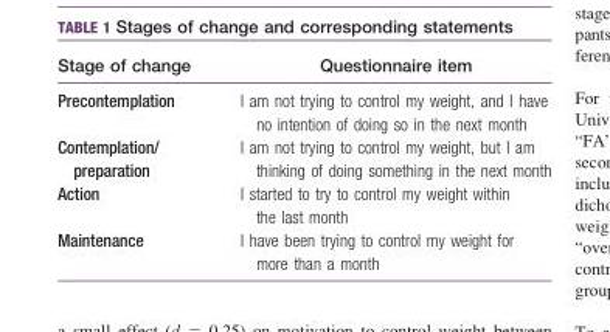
<table><thead><tr><td>Stage of change</td><td>Questionnaire item</td></tr></thead><tbody><tr><td>Precontemplation</td><td>I am not trying to control my weight, and I have no intention of doing so in the next month</td></tr><tr><td>Contemplation/ preparation</td><td>I am not trying to control my weight, but I am thinking of doing something in the next month</td></tr><tr><td>Action</td><td>I started to try to control my weight within the last month</td></tr><tr><td>Maintenance</td><td>I have been trying to control my weight for more than a month</td></tr></tbody></table>